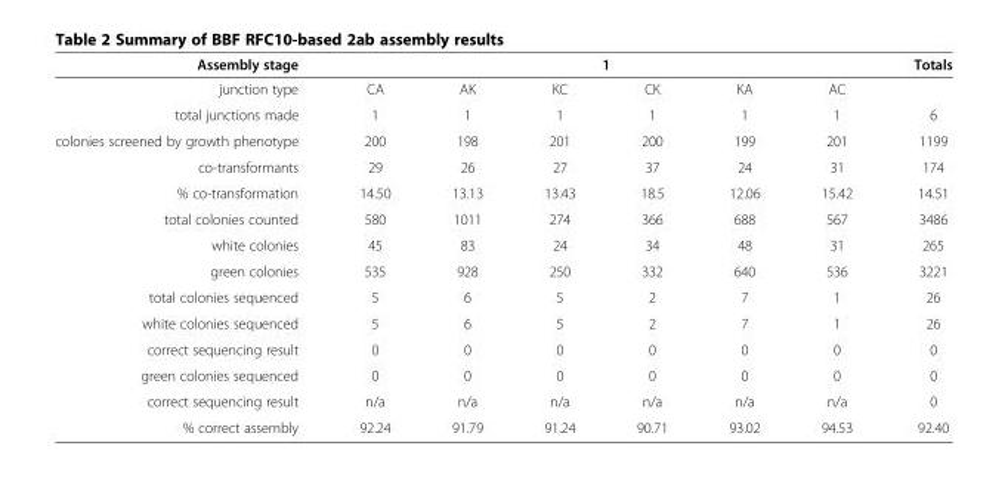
<table><thead><tr><td rowspan="2">Assembly stage junction type</td><td colspan="6">1</td><td rowspan="2">Totals</td></tr><tr><td>CA</td><td>AK</td><td>KC</td><td>CK</td><td>KA</td><td>AC</td></tr></thead><tbody><tr><td>total junctions made</td><td>1</td><td>1</td><td>1</td><td>1</td><td>1</td><td>1</td><td>6</td></tr><tr><td>colonies screened by growth phenotype</td><td>200</td><td>198</td><td>201</td><td>200</td><td>199</td><td>201</td><td>1199</td></tr><tr><td>co-transformants</td><td>29</td><td>26</td><td>27</td><td>37</td><td>24</td><td>31</td><td>174</td></tr><tr><td>% co-transformation</td><td>14.50</td><td>13.13</td><td>13.43</td><td>18.5</td><td>12.06</td><td>15.42</td><td>14.51</td></tr><tr><td>total colonies counted</td><td>580</td><td>1011</td><td>274</td><td>366</td><td>688</td><td>567</td><td>3486</td></tr><tr><td>white colonies</td><td>45</td><td>83</td><td>24</td><td>34</td><td>48</td><td>31</td><td>265</td></tr><tr><td>green colonies</td><td>535</td><td>928</td><td>250</td><td>332</td><td>640</td><td>536</td><td>3221</td></tr><tr><td>total colonies sequenced</td><td>5</td><td>6</td><td>5</td><td>2</td><td>7</td><td>1</td><td>26</td></tr><tr><td>white colonies sequenced</td><td>5</td><td>6</td><td>5</td><td>2</td><td>7</td><td>1</td><td>26</td></tr><tr><td>correct sequencing result</td><td>0</td><td>0</td><td>0</td><td>0</td><td>0</td><td>0</td><td>0</td></tr><tr><td>green colonies sequenced</td><td>0</td><td>0</td><td>0</td><td>0</td><td>0</td><td>0</td><td>0</td></tr><tr><td>correct sequencing result</td><td>n/a</td><td>n/a</td><td>n/a</td><td>n/a</td><td>n/a</td><td>n/a</td><td>0</td></tr><tr><td>% correct assembly</td><td>92.24</td><td>91.79</td><td>91.24</td><td>90.71</td><td>93.02</td><td>94.53</td><td>92.40</td></tr></tbody></table>